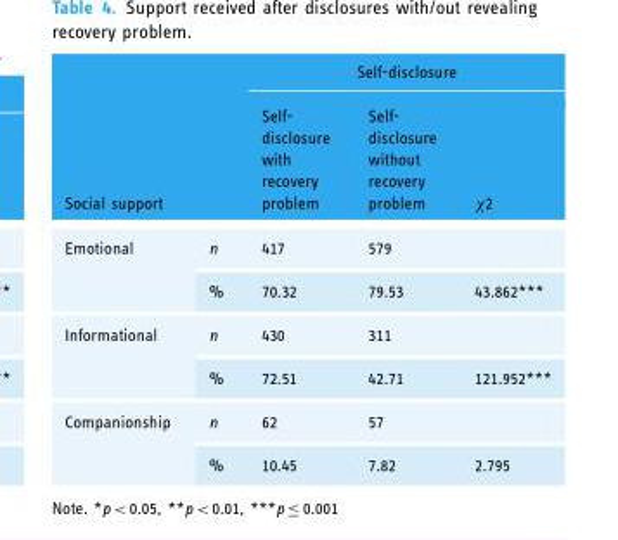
<table><thead><tr><td rowspan="2">Social support</td><td rowspan="2"></td><td colspan="3">Self-disclosure</td></tr><tr><td>Self- disclosure with recovery problem</td><td>Self- disclosure without recovery problem</td><td>χ2</td></tr></thead><tbody><tr><td rowspan="2">Emotional</td><td>n</td><td>417</td><td>579</td><td></td></tr><tr><td>%</td><td>70.32</td><td>79.53</td><td>43.862***</td></tr><tr><td rowspan="2">Informational</td><td>n</td><td>430</td><td>311</td><td></td></tr><tr><td>%</td><td>72.51</td><td>42.71</td><td>121.952***</td></tr><tr><td rowspan="2">Companionship</td><td>n</td><td>62</td><td>57</td><td></td></tr><tr><td>%</td><td>10.45</td><td>7.82</td><td>2.795</td></tr></tbody></table>